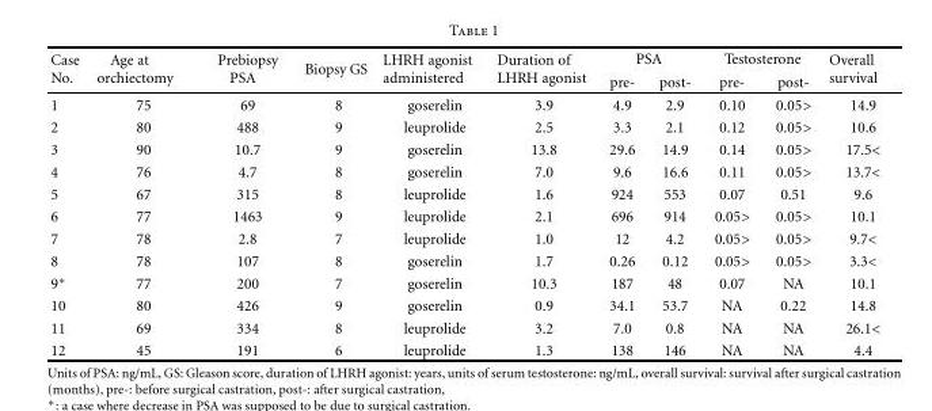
<table><thead><tr><td rowspan="2">Case No.</td><td rowspan="2">Age at orchiectomy</td><td rowspan="2">Prebiopsy PSA</td><td rowspan="2">Biopsy GS</td><td rowspan="2">LHRH agonist administered</td><td rowspan="2">Duration of LHRH agonist</td><td colspan="2">PSA</td><td colspan="2">Testosterone</td><td rowspan="2">Overall survival</td></tr><tr><td>pre-</td><td>post-</td><td>pre-</td><td>post-</td></tr></thead><tbody><tr><td>1</td><td>75</td><td>69</td><td>8</td><td>goserelin</td><td>3.9</td><td>4.9</td><td>2.9</td><td>0.10</td><td>0.05&gt;</td><td>14.9</td></tr><tr><td>2</td><td>80</td><td>488</td><td>9</td><td>leuprolide</td><td>2.5</td><td>3.3</td><td>2.1</td><td>0.12</td><td>0.05&gt;</td><td>10.6</td></tr><tr><td>3</td><td>90</td><td>10.7</td><td>9</td><td>goserelin</td><td>13.8</td><td>29.6</td><td>14.9</td><td>0.14</td><td>0.05&gt;</td><td>17.5&lt;</td></tr><tr><td>4</td><td>76</td><td>4.7</td><td>8</td><td>goserelin</td><td>7.0</td><td>9.6</td><td>16.6</td><td>0.11</td><td>0.05&gt;</td><td>13.7&lt;</td></tr><tr><td>5</td><td>67</td><td>315</td><td>8</td><td>leuprolide</td><td>1.6</td><td>924</td><td>553</td><td>0.07</td><td>0.51</td><td>9.6</td></tr><tr><td>6</td><td>77</td><td>1463</td><td>9</td><td>leuprolide</td><td>2.1</td><td>696</td><td>914</td><td>0.05&gt;</td><td>0.05&gt;</td><td>10.1</td></tr><tr><td>7</td><td>78</td><td>2.8</td><td>7</td><td>leuprolide</td><td>1.0</td><td>12</td><td>4.2</td><td>0.05&gt;</td><td>0.05&gt;</td><td>9.7&lt;</td></tr><tr><td>8</td><td>78</td><td>107</td><td>8</td><td>goserelin</td><td>1.7</td><td>0.26</td><td>0.12</td><td>0.05&gt;</td><td>0.05&gt;</td><td>3.3&lt;</td></tr><tr><td>9∗</td><td>77</td><td>200</td><td>7</td><td>goserelin</td><td>10.3</td><td>187</td><td>48</td><td>0.07</td><td>NA</td><td>10.1</td></tr><tr><td>10</td><td>80</td><td>426</td><td>9</td><td>goserelin</td><td>0.9</td><td>34.1</td><td>53.7</td><td>NA</td><td>0.22</td><td>14.8</td></tr><tr><td>11</td><td>69</td><td>334</td><td>8</td><td>leuprolide</td><td>3.2</td><td>7.0</td><td>0.8</td><td>NA</td><td>NA</td><td>26.1&lt;</td></tr><tr><td>12</td><td>45</td><td>191</td><td>6</td><td>leuprolide</td><td>1.3</td><td>138</td><td>146</td><td>NA</td><td>NA</td><td>4.4</td></tr></tbody></table>